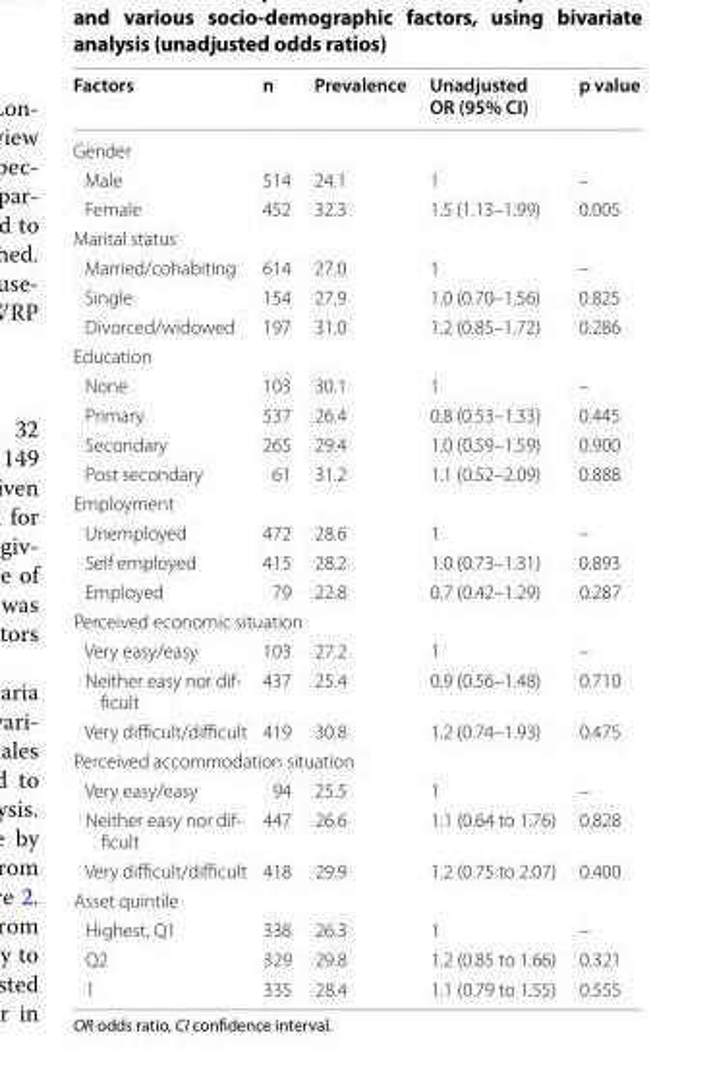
<table><thead><tr><td>Factors</td><td>n</td><td>Prevalence</td><td>Unadjusted OR (95% CI)</td><td>p value</td></tr></thead><tbody><tr><td colspan="5">Gender</td></tr><tr><td>Male</td><td>514</td><td>24.1</td><td>1</td><td>–</td></tr><tr><td>Female</td><td>452</td><td>32.3</td><td>1.5 (1.13–1.99)</td><td>0.005</td></tr><tr><td colspan="5">Marital status</td></tr><tr><td>Married/cohabiting</td><td>614</td><td>27.0</td><td>1</td><td>–</td></tr><tr><td>Single</td><td>154</td><td>27.9</td><td>1.0 (0.70–1.56)</td><td>0.825</td></tr><tr><td>Divorced/widowed</td><td>197</td><td>31.0</td><td>1.2 (0.85–1.72)</td><td>0.286</td></tr><tr><td colspan="5">Education</td></tr><tr><td>None</td><td>103</td><td>30.1</td><td>1</td><td>–</td></tr><tr><td>Primary</td><td>537</td><td>26.4</td><td>0.8 (0.53–1.33)</td><td>0.445</td></tr><tr><td>Secondary</td><td>265</td><td>29.4</td><td>1.0 (0.59–1.59)</td><td>0.900</td></tr><tr><td>Post secondary</td><td>61</td><td>31.2</td><td>1.1 (0.52–2.09)</td><td>0.888</td></tr><tr><td colspan="5">Employment</td></tr><tr><td>Unemployed</td><td>472</td><td>28.6</td><td>1</td><td>–</td></tr><tr><td>Self employed</td><td>415</td><td>28.2</td><td>1.0 (0.73–1.31)</td><td>0.893</td></tr><tr><td>Employed</td><td>79</td><td>22.8</td><td>0.7 (0.42–1.29)</td><td>0.287</td></tr><tr><td colspan="5">Perceived economic situation</td></tr><tr><td>Very easy/easy</td><td>103</td><td>27.2</td><td>1</td><td>–</td></tr><tr><td>Neither easy nor dif- ficult</td><td>437</td><td>25.4</td><td>0.9 (0.56–1.48)</td><td>0.710</td></tr><tr><td>Very difficult/difficult</td><td>419</td><td>30.8</td><td>1.2 (0.74–1.93)</td><td>0.475</td></tr><tr><td colspan="5">Perceived accommodation situation</td></tr><tr><td>Very easy/easy</td><td>94</td><td>25.5</td><td>1</td><td>–</td></tr><tr><td>Neither easy nor dif- ficult</td><td>447</td><td>26.6</td><td>1.1 (0.64 to 1.76)</td><td>0.828</td></tr><tr><td>Very difficult/difficult</td><td>418</td><td>29.9</td><td>1.2 (0.75 to 2.07)</td><td>0.400</td></tr><tr><td colspan="5">Asset quintile</td></tr><tr><td>Highest, Q1</td><td>338</td><td>26.3</td><td>1</td><td>–</td></tr><tr><td>Q2</td><td>329</td><td>29.8</td><td>1.2 (0.85 to 1.66)</td><td>0.321</td></tr><tr><td>1</td><td>335</td><td>28.4</td><td>1.1 (0.79 to 1.55)</td><td>0.555</td></tr></tbody></table>